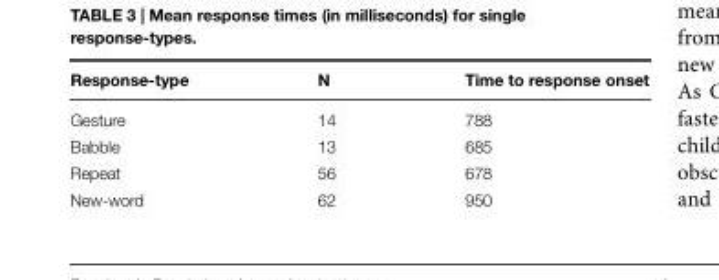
<table><thead><tr><td>Response-type</td><td>N</td><td>Time to response onset</td></tr></thead><tbody><tr><td>Gesture</td><td>14</td><td>788</td></tr><tr><td>Babble</td><td>13</td><td>685</td></tr><tr><td>Repeat</td><td>56</td><td>678</td></tr><tr><td>New-word</td><td>62</td><td>950</td></tr></tbody></table>